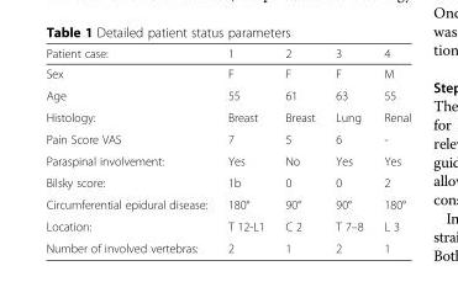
<table><thead><tr><td>Patient case:</td><td>1</td><td>2</td><td>3</td><td>4</td></tr></thead><tbody><tr><td>Sex</td><td>F</td><td>F</td><td>F</td><td>M</td></tr><tr><td>Age</td><td>55</td><td>61</td><td>63</td><td>55</td></tr><tr><td>Histology:</td><td>Breast</td><td>Breast</td><td>Lung</td><td>Renal</td></tr><tr><td>Pain Score VAS</td><td>7</td><td>5</td><td>6</td><td>-</td></tr><tr><td>Paraspinal involvement:</td><td>Yes</td><td>No</td><td>Yes</td><td>Yes</td></tr><tr><td>Bilsky score:</td><td>1b</td><td>0</td><td>0</td><td>2</td></tr><tr><td>Circumferential epidural disease:</td><td>180°</td><td>90°</td><td>90°</td><td>180°</td></tr><tr><td>Location:</td><td>T 12-L1</td><td>C 2</td><td>T 7–8</td><td>L 3</td></tr><tr><td>Number of involved vertebras:</td><td>2</td><td>1</td><td>2</td><td>1</td></tr></tbody></table>